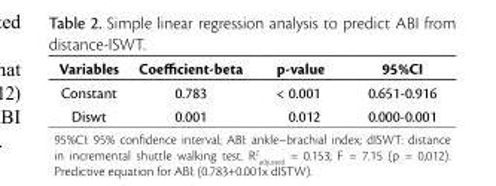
<table><thead><tr><td>Variables</td><td>Coefficient-beta</td><td>p-value</td><td>95%CI</td></tr></thead><tbody><tr><td>Constant</td><td>0.783</td><td>&lt; 0.001</td><td>0.651-0.916</td></tr><tr><td>Diswt</td><td>0.001</td><td>0.012</td><td>0.000-0.001</td></tr></tbody></table>